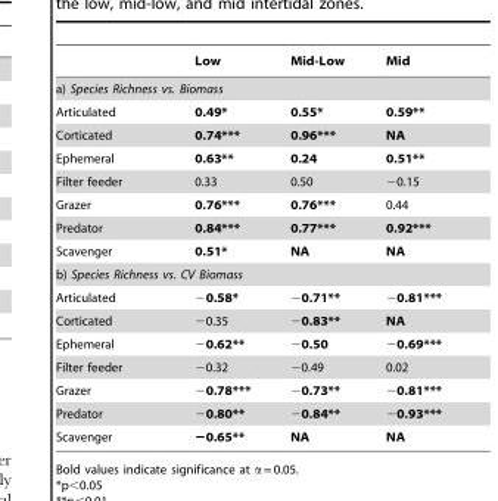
<table><thead><tr><td></td><td>Low</td><td>Mid-Low</td><td>Mid</td></tr></thead><tbody><tr><td colspan="4">a) Species Richness vs. Biomass</td></tr><tr><td>Articulated</td><td>0.49*</td><td>0.55*</td><td>0.59**</td></tr><tr><td>Corticated</td><td>0.74***</td><td>0.96***</td><td>NA</td></tr><tr><td>Ephemeral</td><td>0.63**</td><td>0.24</td><td>0.51**</td></tr><tr><td>Filter feeder</td><td>0.33</td><td>0.50</td><td>−0.15</td></tr><tr><td>Grazer</td><td>0.76***</td><td>0.76***</td><td>0.44</td></tr><tr><td>Predator</td><td>0.84***</td><td>0.77***</td><td>0.92***</td></tr><tr><td>Scavenger</td><td>0.51*</td><td>NA</td><td>NA</td></tr><tr><td colspan="4">b) Species Richness vs. CV Biomass</td></tr><tr><td>Articulated</td><td>−0.58*</td><td>−0.71**</td><td>−0.81***</td></tr><tr><td>Corticated</td><td>−0.35</td><td>−0.83**</td><td>NA</td></tr><tr><td>Ephemeral</td><td>−0.62**</td><td>−0.50</td><td>−0.69***</td></tr><tr><td>Filter feeder</td><td>−0.32</td><td>−0.49</td><td>0.02</td></tr><tr><td>Grazer</td><td>−0.78***</td><td>−0.73**</td><td>−0.81***</td></tr><tr><td>Predator</td><td>−0.80**</td><td>−0.84**</td><td>−0.93***</td></tr><tr><td>Scavenger</td><td>−0.65**</td><td>NA</td><td>NA</td></tr></tbody></table>